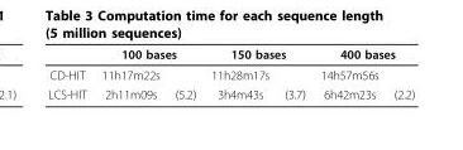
<table><thead><tr><td rowspan="2">CD-HIT</td><td colspan="2">100 bases</td><td colspan="2">150 bases</td><td colspan="2">400 bases</td></tr><tr><td>11h17m22s</td><td></td><td>11h28m17s</td><td></td><td>14h57m56s</td><td></td></tr></thead><tbody><tr><td>LCS-HIT</td><td>2h11m09s</td><td>(5.2)</td><td>3h4m43s</td><td>(3.7)</td><td>6h42m23s</td><td>(2.2)</td></tr></tbody></table>